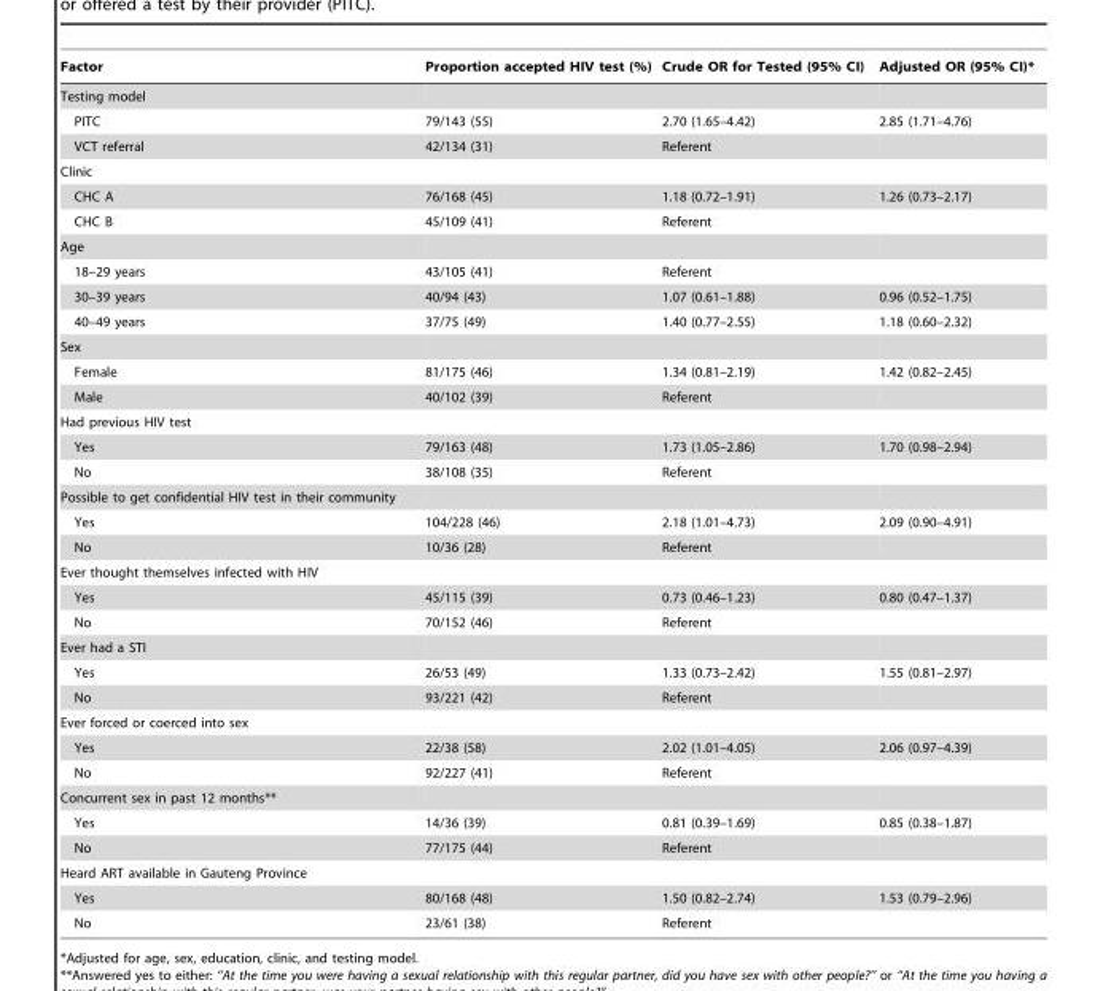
<table><thead><tr><td>Factor</td><td>Proportion accepted HIV test (%)</td><td>Crude OR for Tested (95% CI)</td><td>Adjusted OR (95% CI)*</td></tr></thead><tbody><tr><td colspan="4">Testing model</td></tr><tr><td>PITC</td><td>79/143 (55)</td><td>2.70 (1.65–4.42)</td><td>2.85 (1.71–4.76)</td></tr><tr><td>VCT referral</td><td>42/134 (31)</td><td>Referent</td><td></td></tr><tr><td colspan="4">Clinic</td></tr><tr><td>CHC A</td><td>76/168 (45)</td><td>1.18 (0.72–1.91)</td><td>1.26 (0.73–2.17)</td></tr><tr><td>CHC B</td><td>45/109 (41)</td><td>Referent</td><td></td></tr><tr><td colspan="4">Age</td></tr><tr><td>18–29 years</td><td>43/105 (41)</td><td>Referent</td><td></td></tr><tr><td>30–39 years</td><td>40/94 (43)</td><td>1.07 (0.61–1.88)</td><td>0.96 (0.52–1.75)</td></tr><tr><td>40–49 years</td><td>37/75 (49)</td><td>1.40 (0.77–2.55)</td><td>1.18 (0.60–2.32)</td></tr><tr><td colspan="4">Sex</td></tr><tr><td>Female</td><td>81/175 (46)</td><td>1.34 (0.81–2.19)</td><td>1.42 (0.82–2.45)</td></tr><tr><td>Male</td><td>40/102 (39)</td><td>Referent</td><td></td></tr><tr><td colspan="4">Had previous HIV test</td></tr><tr><td>Yes</td><td>79/163 (48)</td><td>1.73 (1.05–2.86)</td><td>1.70 (0.98–2.94)</td></tr><tr><td>No</td><td>38/108 (35)</td><td>Referent</td><td></td></tr><tr><td colspan="4">Possible to get confidential HIV test in their community</td></tr><tr><td>Yes</td><td>104/228 (46)</td><td>2.18 (1.01–4.73)</td><td>2.09 (0.90–4.91)</td></tr><tr><td>No</td><td>10/36 (28)</td><td>Referent</td><td></td></tr><tr><td colspan="4">Ever thought themselves infected with HIV</td></tr><tr><td>Yes</td><td>45/115 (39)</td><td>0.73 (0.46–1.23)</td><td>0.80 (0.47–1.37)</td></tr><tr><td>No</td><td>70/152 (46)</td><td>Referent</td><td></td></tr><tr><td colspan="4">Ever had a STI</td></tr><tr><td>Yes</td><td>26/53 (49)</td><td>1.33 (0.73–2.42)</td><td>1.55 (0.81–2.97)</td></tr><tr><td>No</td><td>93/221 (42)</td><td>Referent</td><td></td></tr><tr><td colspan="4">Ever forced or coerced into sex</td></tr><tr><td>Yes</td><td>22/38 (58)</td><td>2.02 (1.01–4.05)</td><td>2.06 (0.97–4.39)</td></tr><tr><td>No</td><td>92/227 (41)</td><td>Referent</td><td></td></tr><tr><td colspan="4">Concurrent sex in past 12 months**</td></tr><tr><td>Yes</td><td>14/36 (39)</td><td>0.81 (0.39–1.69)</td><td>0.85 (0.38–1.87)</td></tr><tr><td>No</td><td>77/175 (44)</td><td>Referent</td><td></td></tr><tr><td colspan="4">Heard ART available in Gauteng Province</td></tr><tr><td>Yes</td><td>80/168 (48)</td><td>1.50 (0.82–2.74)</td><td>1.53 (0.79–2.96)</td></tr><tr><td>No</td><td>23/61 (38)</td><td>Referent</td><td></td></tr></tbody></table>